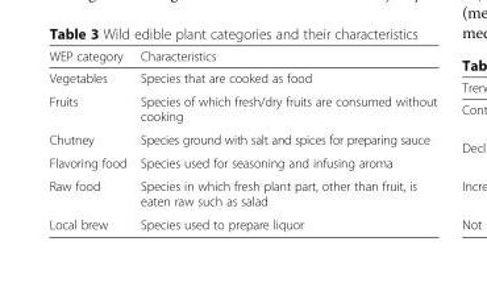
<table><thead><tr><td>WEP category</td><td>Characteristics</td></tr></thead><tbody><tr><td>Vegetables</td><td>Species that are cooked as food</td></tr><tr><td>Fruits</td><td>Species of which fresh/dry fruits are consumed without cooking</td></tr><tr><td>Chutney</td><td>Species ground with salt and spices for preparing sauce</td></tr><tr><td>Flavoring food</td><td>Species used for seasoning and infusing aroma</td></tr><tr><td>Raw food</td><td>Species in which fresh plant part, other than fruit, is eaten raw such as salad</td></tr><tr><td>Local brew</td><td>Species used to prepare liquor</td></tr></tbody></table>